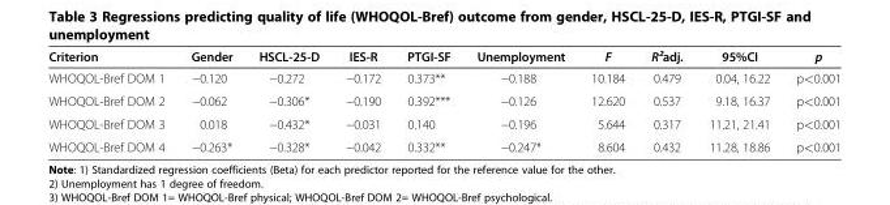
<table><thead><tr><td>Criterion</td><td>Gender</td><td>HSCL-25-D</td><td>IES-R</td><td>PTGI-SF</td><td>Unemployment</td><td>F</td><td>R²adj.</td><td>95%CI</td><td>p</td></tr></thead><tbody><tr><td>WHOQOL-Bref DOM 1</td><td>−0.120</td><td>−0.272</td><td>−0.172</td><td>0.373**</td><td>−0.188</td><td>10.184</td><td>0.479</td><td>0.04, 16.22</td><td>p&lt;0.001</td></tr><tr><td>WHOQOL-Bref DOM 2</td><td>−0.062</td><td>−0.306*</td><td>−0.190</td><td>0.392***</td><td>−0.126</td><td>12.620</td><td>0.537</td><td>9.18, 16.37</td><td>p&lt;0.001</td></tr><tr><td>WHOQOL-Bref DOM 3</td><td>0.018</td><td>−0.432*</td><td>−0.031</td><td>0.140</td><td>−0.196</td><td>5.644</td><td>0.317</td><td>11.21, 21.41</td><td>p&lt;0.001</td></tr><tr><td>WHOQOL-Bref DOM 4</td><td>−0.263*</td><td>−0.328*</td><td>−0.042</td><td>0.332**</td><td>−0.247*</td><td>8.604</td><td>0.432</td><td>11.28, 18.86</td><td>p&lt;0.001</td></tr></tbody></table>